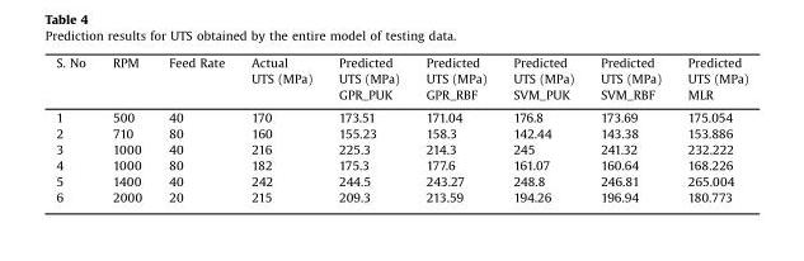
<table><thead><tr><td>S. No</td><td>RPM</td><td>Feed Rate</td><td>Actual UTS (MPa)</td><td>Predicted UTS (MPa) GPR_PUK</td><td>Predicted UTS (MPa) GPR_RBF</td><td>Predicted UTS (MPa) SVM_PUK</td><td>Predicted UTS (MPa) SVM_RBF</td><td>Predicted UTS (MPa) MLR</td></tr></thead><tbody><tr><td>1</td><td>500</td><td>40</td><td>170</td><td>173.51</td><td>171.04</td><td>176.8</td><td>173.69</td><td>175.054</td></tr><tr><td>2</td><td>710</td><td>80</td><td>160</td><td>155.23</td><td>158.3</td><td>142.44</td><td>143.38</td><td>153.886</td></tr><tr><td>3</td><td>1000</td><td>40</td><td>216</td><td>225.3</td><td>214.3</td><td>245</td><td>241.32</td><td>232.222</td></tr><tr><td>4</td><td>1000</td><td>80</td><td>182</td><td>175.3</td><td>177.6</td><td>161.07</td><td>160.64</td><td>168.226</td></tr><tr><td>5</td><td>1400</td><td>40</td><td>242</td><td>244.5</td><td>243.27</td><td>248.8</td><td>246.81</td><td>265.004</td></tr><tr><td>6</td><td>2000</td><td>20</td><td>215</td><td>209.3</td><td>213.59</td><td>194.26</td><td>196.94</td><td>180.773</td></tr></tbody></table>